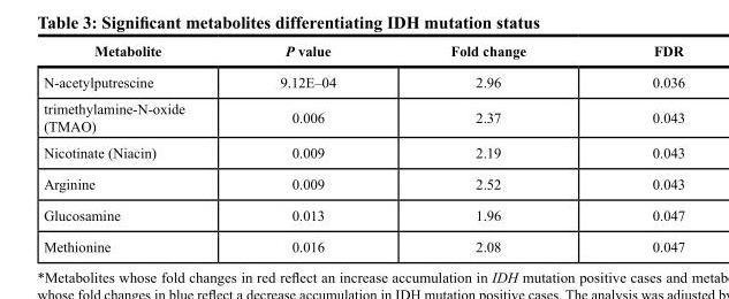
<table><thead><tr><td>Metabolite</td><td>P value</td><td>Fold change</td><td>FDR</td></tr></thead><tbody><tr><td>N-acetylputrescine</td><td>9.12E–04</td><td>2.96</td><td>0.036</td></tr><tr><td>trimethylamine-N-oxide (TMAO)</td><td>0.006</td><td>2.37</td><td>0.043</td></tr><tr><td>Nicotinate (Niacin)</td><td>0.009</td><td>2.19</td><td>0.043</td></tr><tr><td>Arginine</td><td>0.009</td><td>2.52</td><td>0.043</td></tr><tr><td>Glucosamine</td><td>0.013</td><td>1.96</td><td>0.047</td></tr><tr><td>Methionine</td><td>0.016</td><td>2.08</td><td>0.047</td></tr></tbody></table>